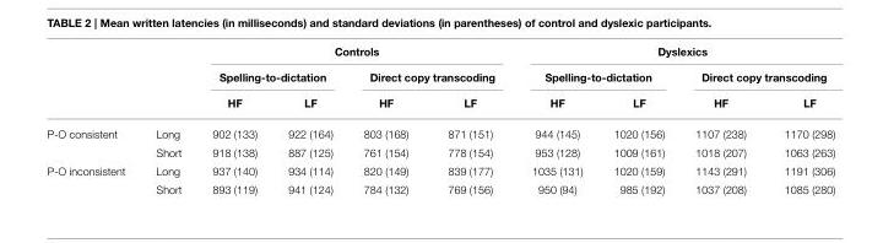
<table><thead><tr><td rowspan="3"></td><td rowspan="3"></td><td colspan="4">Controls</td><td colspan="4">Dyslexics</td></tr><tr><td colspan="2">Spelling-to-dictation</td><td colspan="2">Direct copy transcoding</td><td colspan="2">Spelling-to-dictation</td><td colspan="2">Direct copy transcoding</td></tr><tr><td>HF</td><td>LF</td><td>HF</td><td>LF</td><td>HF</td><td>LF</td><td>HF</td><td>LF</td></tr></thead><tbody><tr><td rowspan="2">P-O consistent</td><td>Long</td><td>902 (133)</td><td>922 (164)</td><td>803 (168)</td><td>871 (151)</td><td>944 (145)</td><td>1020 (156)</td><td>1107 (238)</td><td>1170 (298)</td></tr><tr><td>Short</td><td>918 (138)</td><td>887 (125)</td><td>761 (154)</td><td>778 (154)</td><td>953 (128)</td><td>1009 (161)</td><td>1018 (207)</td><td>1063 (263)</td></tr><tr><td rowspan="2">P-O inconsistent</td><td>Long</td><td>937 (140)</td><td>934 (114)</td><td>820 (149)</td><td>839 (177)</td><td>1035 (131)</td><td>1020 (159)</td><td>1143 (291)</td><td>1191 (306)</td></tr><tr><td>Short</td><td>893 (119)</td><td>941 (124)</td><td>784 (132)</td><td>769 (156)</td><td>950 (94)</td><td>985 (192)</td><td>1037 (208)</td><td>1085 (280)</td></tr></tbody></table>